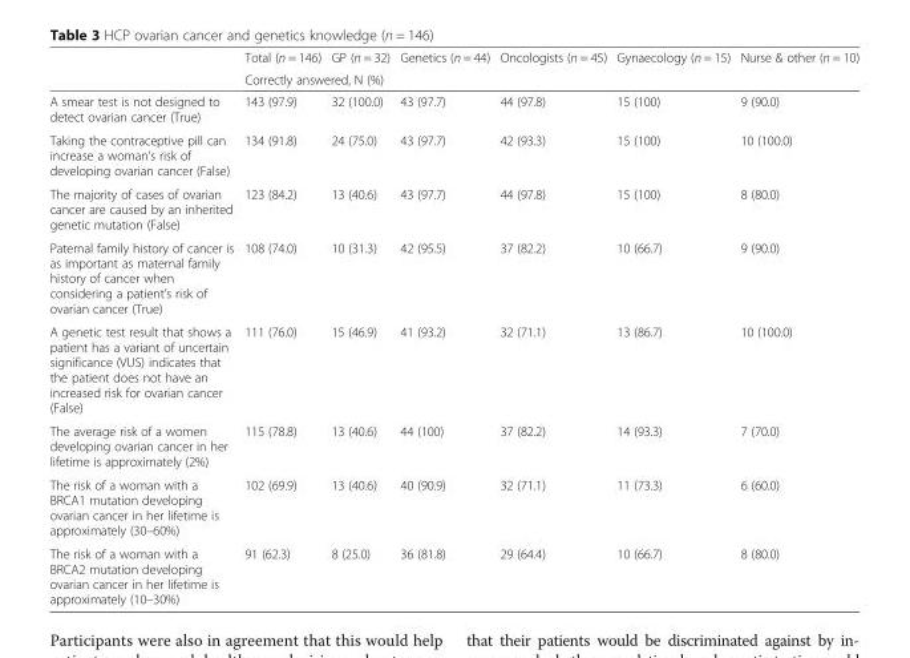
<table><thead><tr><td rowspan="2"></td><td>Total (n = 146)</td><td>GP (n = 32)</td><td>Genetics (n = 44)</td><td>Oncologists (n = 45)</td><td>Gynaecology (n = 15)</td><td>Nurse &amp; other (n = 10)</td></tr><tr><td colspan="6">Correctly answered, N (%)</td></tr></thead><tbody><tr><td>A smear test is not designed to detect ovarian cancer (True)</td><td>143 (97.9)</td><td>32 (100.0)</td><td>43 (97.7)</td><td>44 (97.8)</td><td>15 (100)</td><td>9 (90.0)</td></tr><tr><td>Taking the contraceptive pill can increase a woman’s risk of developing ovarian cancer (False)</td><td>134 (91.8)</td><td>24 (75.0)</td><td>43 (97.7)</td><td>42 (93.3)</td><td>15 (100)</td><td>10 (100.0)</td></tr><tr><td>The majority of cases of ovarian cancer are caused by an inherited genetic mutation (False)</td><td>123 (84.2)</td><td>13 (40.6)</td><td>43 (97.7)</td><td>44 (97.8)</td><td>15 (100)</td><td>8 (80.0)</td></tr><tr><td>Paternal family history of cancer is as important as maternal family history of cancer when considering a patient’s risk of ovarian cancer (True)</td><td>108 (74.0)</td><td>10 (31.3)</td><td>42 (95.5)</td><td>37 (82.2)</td><td>10 (66.7)</td><td>9 (90.0)</td></tr><tr><td>A genetic test result that shows a patient has a variant of uncertain significance (VUS) indicates that the patient does not have an increased risk for ovarian cancer (False)</td><td>111 (76.0)</td><td>15 (46.9)</td><td>41 (93.2)</td><td>32 (71.1)</td><td>13 (86.7)</td><td>10 (100.0)</td></tr><tr><td>The average risk of a women developing ovarian cancer in her lifetime is approximately (2%)</td><td>115 (78.8)</td><td>13 (40.6)</td><td>44 (100)</td><td>37 (82.2)</td><td>14 (93.3)</td><td>7 (70.0)</td></tr><tr><td>The risk of a woman with a BRCA1 mutation developing ovarian cancer in her lifetime is approximately (30–60%)</td><td>102 (69.9)</td><td>13 (40.6)</td><td>40 (90.9)</td><td>32 (71.1)</td><td>11 (73.3)</td><td>6 (60.0)</td></tr><tr><td>The risk of a woman with a BRCA2 mutation developing ovarian cancer in her lifetime is approximately (10–30%)</td><td>91 (62.3)</td><td>8 (25.0)</td><td>36 (81.8)</td><td>29 (64.4)</td><td>10 (66.7)</td><td>8 (80.0)</td></tr></tbody></table>